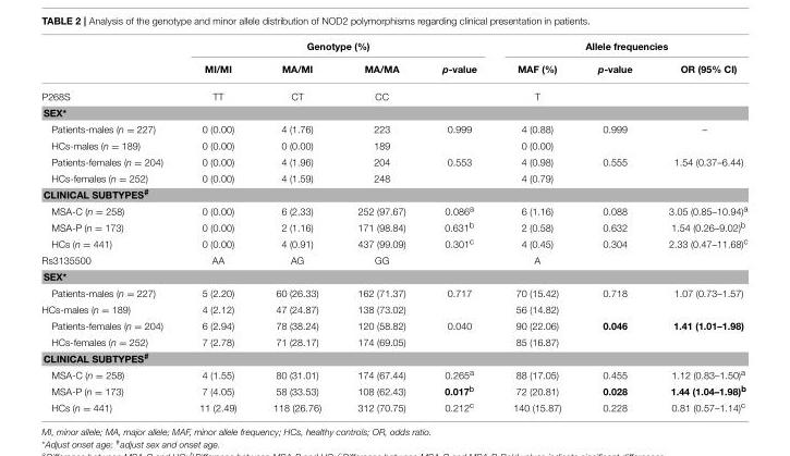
<table><thead><tr><td rowspan="2"></td><td colspan="4">Genotype (%)</td><td colspan="3">Allele frequencies</td></tr><tr><td>MI/MI</td><td>MA/MI</td><td>MA/MA</td><td>p-value</td><td>MAF (%)</td><td>p-value</td><td>OR (95% CI)</td></tr></thead><tbody><tr><td>P268S</td><td>TT</td><td>CT</td><td>CC</td><td></td><td>T</td><td></td><td></td></tr><tr><td colspan="8">SEX*</td></tr><tr><td>Patients-males (n = 227)</td><td>0 (0.00)</td><td>4 (1.76)</td><td>223</td><td>0.999</td><td>4 (0.88)</td><td>0.999</td><td>–</td></tr><tr><td>HCs-males (n = 189)</td><td>0 (0.00)</td><td>0 (0.00)</td><td>189</td><td></td><td>0 (0.00)</td><td></td><td></td></tr><tr><td>Patients-females (n = 204)</td><td>0 (0.00)</td><td>4 (1.96)</td><td>204</td><td>0.553</td><td>4 (0.98)</td><td>0.555</td><td>1.54 (0.37–6.44)</td></tr><tr><td>HCs-females (n = 252)</td><td>0 (0.00)</td><td>4 (1.59)</td><td>248</td><td></td><td>4 (0.79)</td><td></td><td></td></tr><tr><td colspan="8">CLINICAL SUBTYPES<sup>#</sup></td></tr><tr><td>MSA-C (n = 258)</td><td>0 (0.00)</td><td>6 (2.33)</td><td>252 (97.67)</td><td>0.086<sup>a</sup></td><td>6 (1.16)</td><td>0.088</td><td>3.05 (0.85–10.94)<sup>a</sup></td></tr><tr><td>MSA-P (n = 173)</td><td>0 (0.00)</td><td>2 (1.16)</td><td>171 (98.84)</td><td>0.631<sup>b</sup></td><td>2 (0.58)</td><td>0.632</td><td>1.54 (0.26–9.02)<sup>b</sup></td></tr><tr><td>HCs (n = 441)</td><td>0 (0.00)</td><td>4 (0.91)</td><td>437 (99.09)</td><td>0.301<sup>c</sup></td><td>4 (0.45)</td><td>0.304</td><td>2.33 (0.47–11.68)<sup>c</sup></td></tr><tr><td>Rs3135500</td><td>AA</td><td>AG</td><td>GG</td><td></td><td>A</td><td></td><td></td></tr><tr><td colspan="8">SEX*</td></tr><tr><td>Patients-males (n = 227)</td><td>5 (2.20)</td><td>60 (26.33)</td><td>162 (71.37)</td><td>0.717</td><td>70 (15.42)</td><td>0.718</td><td>1.07 (0.73–1.57)</td></tr><tr><td>HCs-males (n = 189)</td><td>4 (2.12)</td><td>47 (24.87)</td><td>138 (73.02)</td><td></td><td>56 (14.82)</td><td></td><td></td></tr><tr><td>Patients-females (n = 204)</td><td>6 (2.94)</td><td>78 (38.24)</td><td>120 (58.82)</td><td>0.040</td><td>90 (22.06)</td><td>0.046</td><td>1.41 (1.01–1.98)</td></tr><tr><td>HCs-females (n = 252)</td><td>7 (2.78)</td><td>71 (28.17)</td><td>174 (69.05)</td><td></td><td>85 (16.87)</td><td></td><td></td></tr><tr><td colspan="8">CLINICAL SUBTYPES<sup>#</sup></td></tr><tr><td>MSA-C (n = 258)</td><td>4 (1.55)</td><td>80 (31.01)</td><td>174 (67.44)</td><td>0.265<sup>a</sup></td><td>88 (17.05)</td><td>0.455</td><td>1.12 (0.83–1.50)<sup>a</sup></td></tr><tr><td>MSA-P (n = 173)</td><td>7 (4.05)</td><td>58 (33.53)</td><td>108 (62.43)</td><td>0.017<sup>b</sup></td><td>72 (20.81)</td><td>0.028</td><td>1.44 (1.04–1.98)<sup>b</sup></td></tr><tr><td>HCs (n = 441)</td><td>11 (2.49)</td><td>118 (26.76)</td><td>312 (70.75)</td><td>0.212<sup>c</sup></td><td>140 (15.87)</td><td>0.228</td><td>0.81 (0.57–1.14)<sup>c</sup></td></tr></tbody></table>